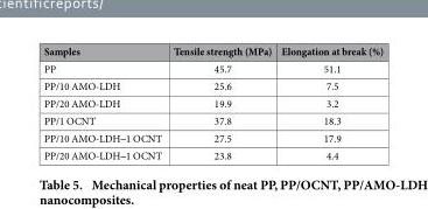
<table><thead><tr><td>Samples</td><td>Tensile strength (MPa)</td><td>Elongation at break (%)</td></tr></thead><tbody><tr><td>PP</td><td>45.7</td><td>51.1</td></tr><tr><td>PP/10 AMO-LDH</td><td>25.6</td><td>7.5</td></tr><tr><td>PP/20 AMO-LDH</td><td>19.9</td><td>3.2</td></tr><tr><td>PP/1 OCNT</td><td>37.8</td><td>18.3</td></tr><tr><td>PP/10 AMO-LDH‒ 1 OCNT</td><td>27.5</td><td>17.9</td></tr><tr><td>PP/20 AMO-LDH‒ 1 OCNT</td><td>23.8</td><td>4.4</td></tr></tbody></table>